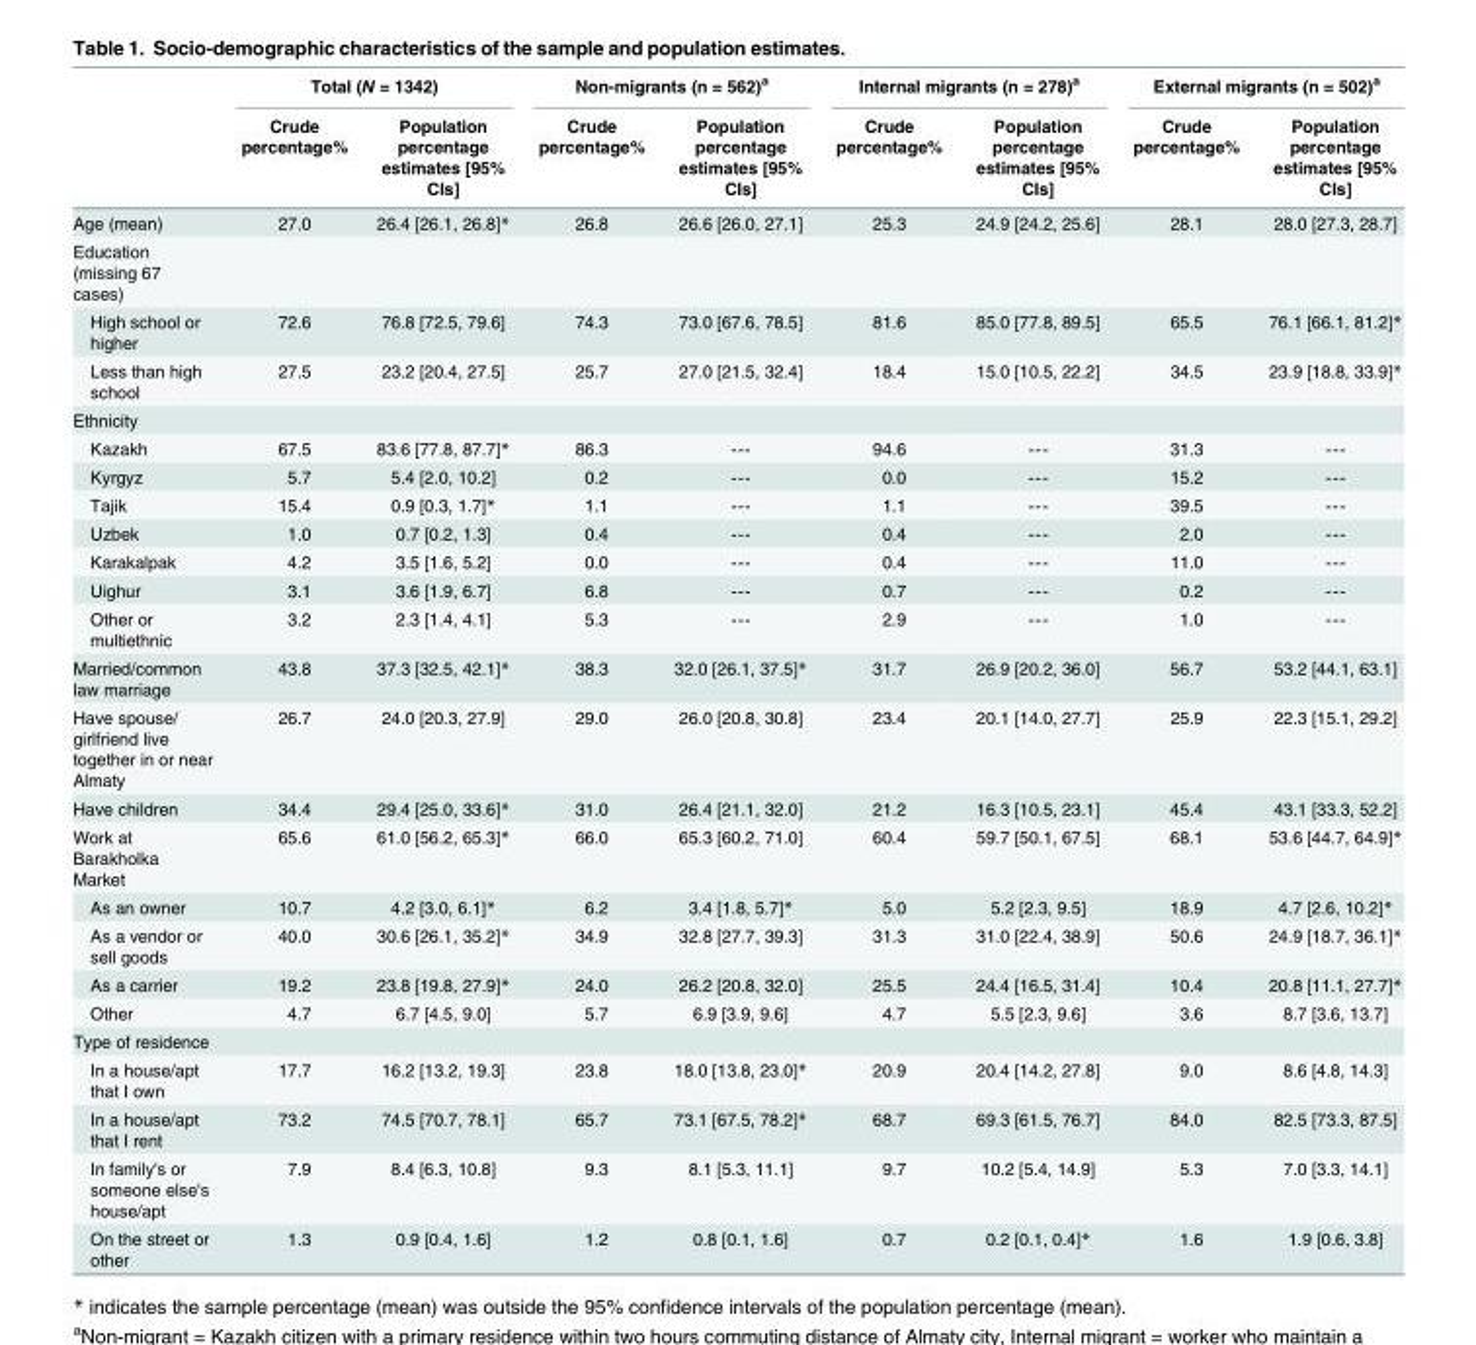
<table><thead><tr><td rowspan="2"></td><td colspan="2">Total (N = 1342)</td><td colspan="2">Non-migrants (n = 562)<sup>a</sup></td><td colspan="2">Internal migrants (n = 278)<sup>a</sup></td><td colspan="2">External migrants (n = 502)<sup>a</sup></td></tr><tr><td>Crude percentage%</td><td>Population percentage estimates [95% CIs]</td><td>Crude percentage%</td><td>Population percentage estimates [95% CIs]</td><td>Crude percentage%</td><td>Population percentage estimates [95% CIs]</td><td>Crude percentage%</td><td>Population percentage estimates [95% CIs]</td></tr></thead><tbody><tr><td>Age (mean)</td><td>27.0</td><td>26.4 [26.1, 26.8]*</td><td>26.8</td><td>26.6 [26.0, 27.1]</td><td>25.3</td><td>24.9 [24.2, 25.6]</td><td>28.1</td><td>28.0 [27.3, 28.7]</td></tr><tr><td colspan="9">Education (missing 67 cases)</td></tr><tr><td>High school or higher</td><td>72.6</td><td>76.8 [72.5, 79.6]</td><td>74.3</td><td>73.0 [67.6, 78.5]</td><td>81.6</td><td>85.0 [77.8, 89.5]</td><td>65.5</td><td>76.1 [66.1, 81.2]*</td></tr><tr><td>Less than high school</td><td>27.5</td><td>23.2 [20.4, 27.5]</td><td>25.7</td><td>27.0 [21.5, 32.4]</td><td>18.4</td><td>15.0 [10.5, 22.2]</td><td>34.5</td><td>23.9 [18.8, 33.9]*</td></tr><tr><td colspan="9">Ethnicity</td></tr><tr><td>Kazakh</td><td>67.5</td><td>83.6 [77.8, 87.7]*</td><td>86.3</td><td>---</td><td>94.6</td><td>---</td><td>31.3</td><td>---</td></tr><tr><td>Kyrgyz</td><td>5.7</td><td>5.4 [2.0, 10.2]</td><td>0.2</td><td>---</td><td>0.0</td><td>---</td><td>15.2</td><td>---</td></tr><tr><td>Tajik</td><td>15.4</td><td>0.9 [0.3, 1.7]*</td><td>1.1</td><td>---</td><td>1.1</td><td>---</td><td>39.5</td><td>---</td></tr><tr><td>Uzbek</td><td>1.0</td><td>0.7 [0.2, 1.3]</td><td>0.4</td><td>---</td><td>0.4</td><td>---</td><td>2.0</td><td>---</td></tr><tr><td>Karakalpak</td><td>4.2</td><td>3.5 [1.6, 5.2]</td><td>0.0</td><td>---</td><td>0.4</td><td>---</td><td>11.0</td><td>---</td></tr><tr><td>Uighur</td><td>3.1</td><td>3.6 [1.9, 6.7]</td><td>6.8</td><td>---</td><td>0.7</td><td>---</td><td>0.2</td><td>---</td></tr><tr><td>Other or multiethnic</td><td>3.2</td><td>2.3 [1.4, 4.1]</td><td>5.3</td><td>---</td><td>2.9</td><td>---</td><td>1.0</td><td>---</td></tr><tr><td>Married/common law marriage</td><td>43.8</td><td>37.3 [32.5, 42.1]*</td><td>38.3</td><td>32.0 [26.1, 37.5]*</td><td>31.7</td><td>26.9 [20.2, 36.0]</td><td>56.7</td><td>53.2 [44.1, 63.1]</td></tr><tr><td>Have spouse/ girlfriend live together in or near Almaty</td><td>26.7</td><td>24.0 [20.3, 27.9]</td><td>29.0</td><td>26.0 [20.8, 30.8]</td><td>23.4</td><td>20.1 [14.0, 27.7]</td><td>25.9</td><td>22.3 [15.1, 29.2]</td></tr><tr><td>Have children</td><td>34.4</td><td>29.4 [25.0, 33.6]*</td><td>31.0</td><td>26.4 [21.1, 32.0]</td><td>21.2</td><td>16.3 [10.5, 23.1]</td><td>45.4</td><td>43.1 [33.3, 52.2]</td></tr><tr><td>Work at Barakholka Market</td><td>65.6</td><td>61.0 [56.2, 65.3]*</td><td>66.0</td><td>65.3 [60.2, 71.0]</td><td>60.4</td><td>59.7 [50.1, 67.5]</td><td>68.1</td><td>53.6 [44.7, 64.9]*</td></tr><tr><td>As an owner</td><td>10.7</td><td>4.2 [3.0, 6.1]*</td><td>6.2</td><td>3.4 [1.8, 5.7]*</td><td>5.0</td><td>5.2 [2.3, 9.5]</td><td>18.9</td><td>4.7 [2.6, 10.2]*</td></tr><tr><td>As a vendor or sell goods</td><td>40.0</td><td>30.6 [26.1, 35.2]*</td><td>34.9</td><td>32.8 [27.7, 39.3]</td><td>31.3</td><td>31.0 [22.4, 38.9]</td><td>50.6</td><td>24.9 [18.7, 36.1]*</td></tr><tr><td>As a carrier</td><td>19.2</td><td>23.8 [19.8, 27.9]*</td><td>24.0</td><td>26.2 [20.8, 32.0]</td><td>25.5</td><td>24.4 [16.5, 31.4]</td><td>10.4</td><td>20.8 [11.1, 27.7]*</td></tr><tr><td>Other</td><td>4.7</td><td>6.7 [4.5, 9.0]</td><td>5.7</td><td>6.9 [3.9, 9.6]</td><td>4.7</td><td>5.5 [2.3, 9.6]</td><td>3.6</td><td>8.7 [3.6, 13.7]</td></tr><tr><td colspan="9">Type of residence</td></tr><tr><td>In a house/apt that I own</td><td>17.7</td><td>16.2 [13.2, 19.3]</td><td>23.8</td><td>18.0 [13.8, 23.0]*</td><td>20.9</td><td>20.4 [14.2, 27.8]</td><td>9.0</td><td>8.6 [4.8, 14.3]</td></tr><tr><td>In a house/apt that I rent</td><td>73.2</td><td>74.5 [70.7, 78.1]</td><td>65.7</td><td>73.1 [67.5, 78.2]*</td><td>68.7</td><td>69.3 [61.5, 76.7]</td><td>84.0</td><td>82.5 [73.3, 87.5]</td></tr><tr><td>In family&#x27;s or someone else&#x27;s house/apt</td><td>7.9</td><td>8.4 [6.3, 10.8]</td><td>9.3</td><td>8.1 [5.3, 11.1]</td><td>9.7</td><td>10.2 [5.4, 14.9]</td><td>5.3</td><td>7.0 [3.3, 14.1]</td></tr><tr><td>On the street or other</td><td>1.3</td><td>0.9 [0.4, 1.6]</td><td>1.2</td><td>0.8 [0.1, 1.6]</td><td>0.7</td><td>0.2 [0.1, 0.4]*</td><td>1.6</td><td>1.9 [0.6, 3.8]</td></tr></tbody></table>